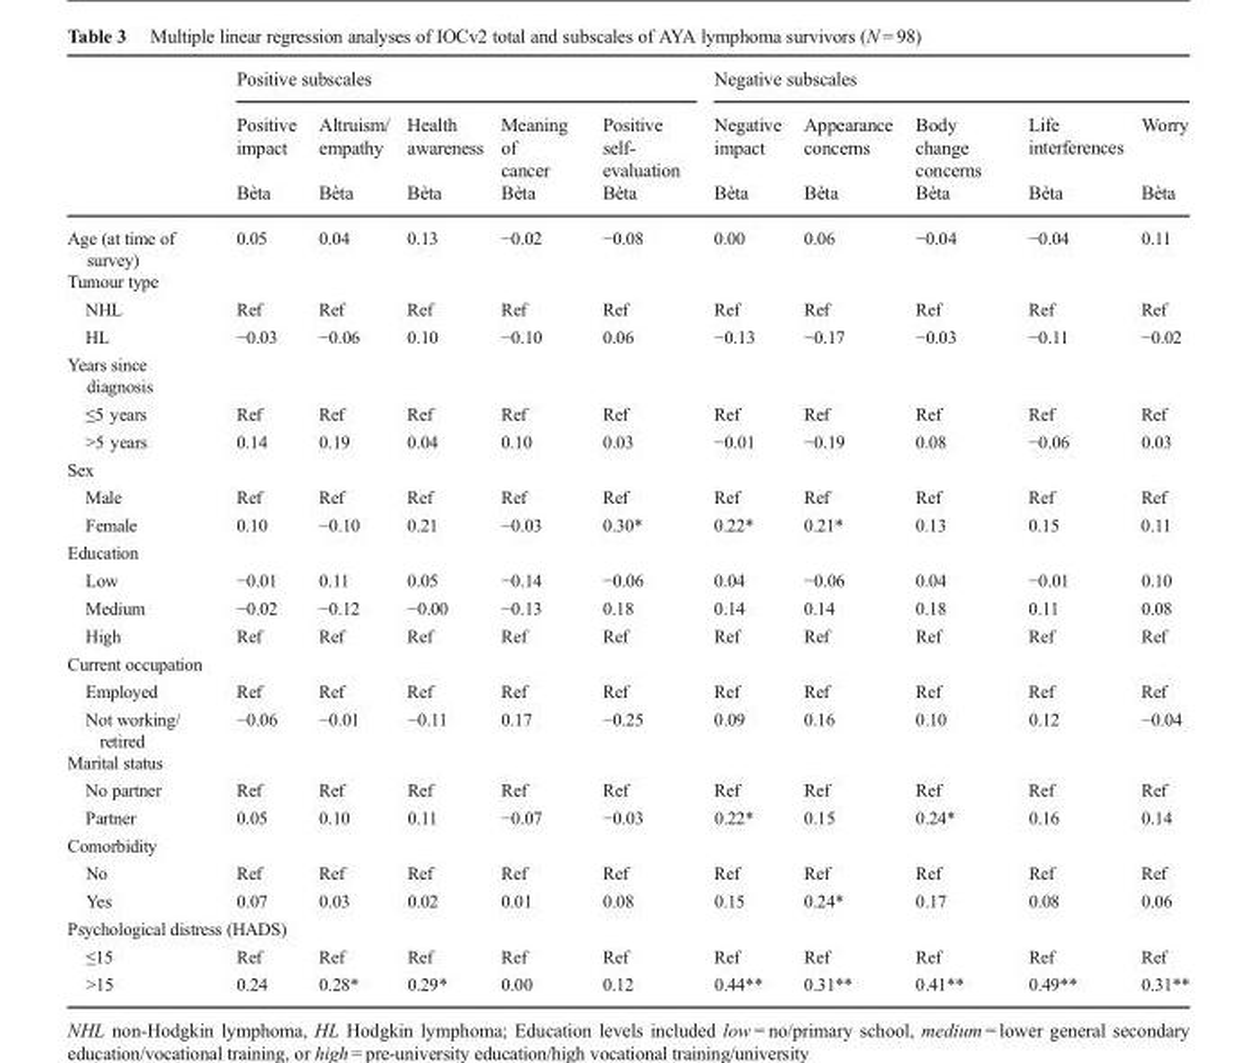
<table><thead><tr><td rowspan="3"></td><td colspan="5">Positive subscales</td><td colspan="5">Negative subscales</td></tr><tr><td rowspan="2">Positive impact Bèta</td><td rowspan="2">Altruism/ empathy Bèta</td><td rowspan="2">Health awareness Bèta</td><td rowspan="2">Meaning of cancer Bèta</td><td rowspan="2">Positive self- evaluation Bèta</td><td rowspan="2">Negative impact Bèta</td><td rowspan="2">Appearance concerns Bèta</td><td rowspan="2">Body change concerns Bèta</td><td rowspan="2">Life interferences Bèta</td><td rowspan="2">Worry Bèta</td></tr><tr></tr></thead><tbody><tr><td>Age (at time of survey)</td><td>0.05</td><td>0.04</td><td>0.13</td><td>−0.02</td><td>−0.08</td><td>0.00</td><td>0.06</td><td>−0.04</td><td>−0.04</td><td>0.11</td></tr><tr><td colspan="11">Tumour type</td></tr><tr><td>NHL</td><td>Ref</td><td>Ref</td><td>Ref</td><td>Ref</td><td>Ref</td><td>Ref</td><td>Ref</td><td>Ref</td><td>Ref</td><td>Ref</td></tr><tr><td>HL</td><td>−0.03</td><td>−0.06</td><td>0.10</td><td>−0.10</td><td>0.06</td><td>−0.13</td><td>−0.17</td><td>−0.03</td><td>−0.11</td><td>−0.02</td></tr><tr><td colspan="11">Years since diagnosis</td></tr><tr><td>≤5 years</td><td>Ref</td><td>Ref</td><td>Ref</td><td>Ref</td><td>Ref</td><td>Ref</td><td>Ref</td><td>Ref</td><td>Ref</td><td>Ref</td></tr><tr><td>&gt;5 years</td><td>0.14</td><td>0.19</td><td>0.04</td><td>0.10</td><td>0.03</td><td>−0.01</td><td>−0.19</td><td>0.08</td><td>−0.06</td><td>0.03</td></tr><tr><td colspan="11">Sex</td></tr><tr><td>Male</td><td>Ref</td><td>Ref</td><td>Ref</td><td>Ref</td><td>Ref</td><td>Ref</td><td>Ref</td><td>Ref</td><td>Ref</td><td>Ref</td></tr><tr><td>Female</td><td>0.10</td><td>−0.10</td><td>0.21</td><td>−0.03</td><td>0.30*</td><td>0.22*</td><td>0.21*</td><td>0.13</td><td>0.15</td><td>0.11</td></tr><tr><td colspan="11">Education</td></tr><tr><td>Low</td><td>−0.01</td><td>0.11</td><td>0.05</td><td>−0.14</td><td>−0.06</td><td>0.04</td><td>−0.06</td><td>0.04</td><td>−0.01</td><td>0.10</td></tr><tr><td>Medium</td><td>−0.02</td><td>−0.12</td><td>−0.00</td><td>−0.13</td><td>0.18</td><td>0.14</td><td>0.14</td><td>0.18</td><td>0.11</td><td>0.08</td></tr><tr><td>High</td><td>Ref</td><td>Ref</td><td>Ref</td><td>Ref</td><td>Ref</td><td>Ref</td><td>Ref</td><td>Ref</td><td>Ref</td><td>Ref</td></tr><tr><td colspan="11">Current occupation</td></tr><tr><td>Employed</td><td>Ref</td><td>Ref</td><td>Ref</td><td>Ref</td><td>Ref</td><td>Ref</td><td>Ref</td><td>Ref</td><td>Ref</td><td>Ref</td></tr><tr><td>Not working/ retired</td><td>−0.06</td><td>−0.01</td><td>−0.11</td><td>0.17</td><td>−0.25</td><td>0.09</td><td>0.16</td><td>0.10</td><td>0.12</td><td>−0.04</td></tr><tr><td colspan="11">Marital status</td></tr><tr><td>No partner</td><td>Ref</td><td>Ref</td><td>Ref</td><td>Ref</td><td>Ref</td><td>Ref</td><td>Ref</td><td>Ref</td><td>Ref</td><td>Ref</td></tr><tr><td>Partner</td><td>0.05</td><td>0.10</td><td>0.11</td><td>−0.07</td><td>−0.03</td><td>0.22*</td><td>0.15</td><td>0.24*</td><td>0.16</td><td>0.14</td></tr><tr><td colspan="11">Comorbidity</td></tr><tr><td>No</td><td>Ref</td><td>Ref</td><td>Ref</td><td>Ref</td><td>Ref</td><td>Ref</td><td>Ref</td><td>Ref</td><td>Ref</td><td>Ref</td></tr><tr><td>Yes</td><td>0.07</td><td>0.03</td><td>0.02</td><td>0.01</td><td>0.08</td><td>0.15</td><td>0.24*</td><td>0.17</td><td>0.08</td><td>0.06</td></tr><tr><td colspan="11">Psychological distress (HADS)</td></tr><tr><td>≤15</td><td>Ref</td><td>Ref</td><td>Ref</td><td>Ref</td><td>Ref</td><td>Ref</td><td>Ref</td><td>Ref</td><td>Ref</td><td>Ref</td></tr><tr><td>&gt;15</td><td>0.24</td><td>0.28*</td><td>0.29*</td><td>0.00</td><td>0.12</td><td>0.44**</td><td>0.31**</td><td>0.41**</td><td>0.49**</td><td>0.31**</td></tr></tbody></table>